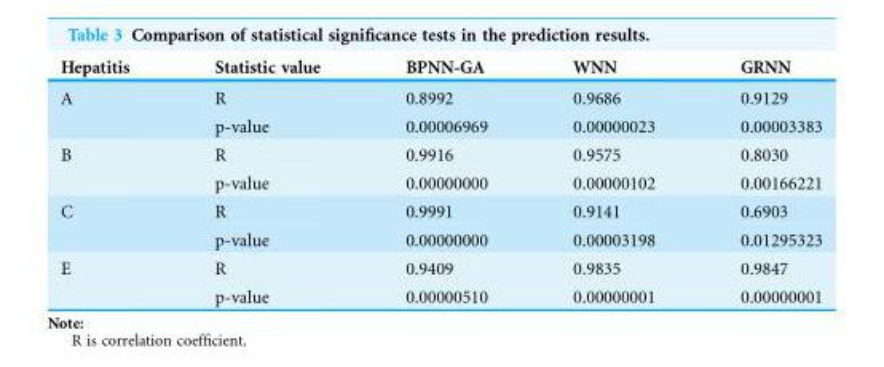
<table><thead><tr><td>Hepatitis</td><td>Statistic value</td><td>BPNN-GA</td><td>WNN</td><td>GRNN</td></tr></thead><tbody><tr><td rowspan="2">A</td><td>R</td><td>0.8992</td><td>0.9686</td><td>0.9129</td></tr><tr><td>p-value</td><td>0.00006969</td><td>0.00000023</td><td>0.00003383</td></tr><tr><td rowspan="2">B</td><td>R</td><td>0.9916</td><td>0.9575</td><td>0.8030</td></tr><tr><td>p-value</td><td>0.00000000</td><td>0.00000102</td><td>0.00166221</td></tr><tr><td rowspan="2">C</td><td>R</td><td>0.9991</td><td>0.9141</td><td>0.6903</td></tr><tr><td>p-value</td><td>0.00000000</td><td>0.00003198</td><td>0.01295323</td></tr><tr><td rowspan="2">E</td><td>R</td><td>0.9409</td><td>0.9835</td><td>0.9847</td></tr><tr><td>p-value</td><td>0.00000510</td><td>0.00000001</td><td>0.00000001</td></tr></tbody></table>